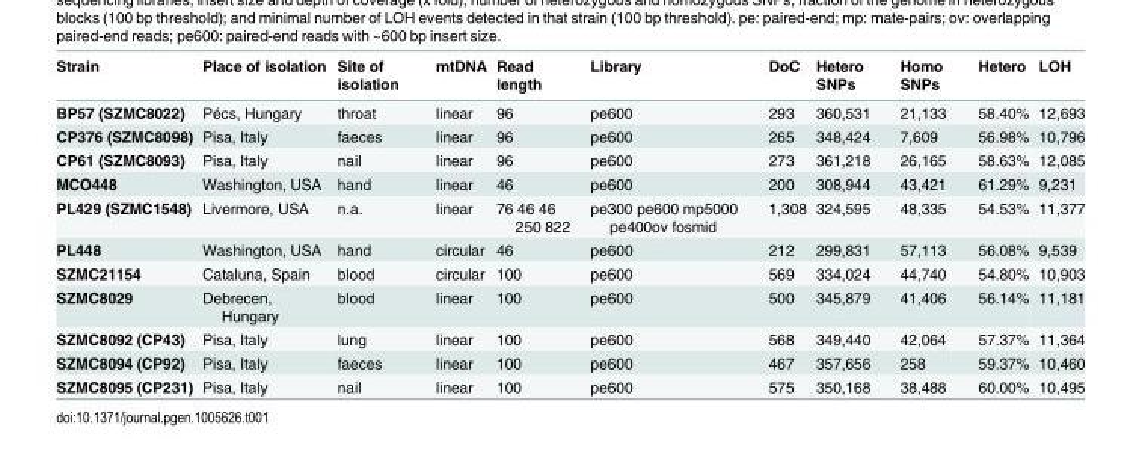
<table><thead><tr><td>Strain</td><td>Place of isolation</td><td>Site of isolation</td><td>mtDNA</td><td>Read length</td><td>Library</td><td>DoC</td><td>Hetero SNPs</td><td>Homo SNPs</td><td>Hetero</td><td>LOH</td></tr></thead><tbody><tr><td>BP57 (SZMC8022)</td><td>Pécs, Hungary</td><td>throat</td><td>linear</td><td>96</td><td>pe600</td><td>293</td><td>360,531</td><td>21,133</td><td>58.40%</td><td>12,693</td></tr><tr><td>CP376 (SZMC8098)</td><td>Pisa, Italy</td><td>faeces</td><td>linear</td><td>96</td><td>pe600</td><td>265</td><td>348,424</td><td>7,609</td><td>56.98%</td><td>10,796</td></tr><tr><td>CP61 (SZMC8093)</td><td>Pisa, Italy</td><td>nail</td><td>linear</td><td>96</td><td>pe600</td><td>273</td><td>361,218</td><td>26,165</td><td>58.63%</td><td>12,085</td></tr><tr><td>MCO448</td><td>Washington, USA</td><td>hand</td><td>linear</td><td>46</td><td>pe600</td><td>200</td><td>308,944</td><td>43,421</td><td>61.29%</td><td>9,231</td></tr><tr><td>PL429 (SZMC1548)</td><td>Livermore, USA</td><td>n.a.</td><td>linear</td><td>76 46 46 250 822</td><td>pe300 pe600 mp5000 pe400ov fosmid</td><td>1,308</td><td>324,595</td><td>48,335</td><td>54.53%</td><td>11,377</td></tr><tr><td>PL448</td><td>Washington, USA</td><td>hand</td><td>circular</td><td>46</td><td>pe600</td><td>212</td><td>299,831</td><td>57,113</td><td>56.08%</td><td>9,539</td></tr><tr><td>SZMC21154</td><td>Cataluna, Spain</td><td>blood</td><td>circular</td><td>100</td><td>pe600</td><td>569</td><td>334,024</td><td>44,740</td><td>54.80%</td><td>10,903</td></tr><tr><td>SZMC8029</td><td>Debrecen, Hungary</td><td>blood</td><td>linear</td><td>100</td><td>pe600</td><td>500</td><td>345,879</td><td>41,406</td><td>56.14%</td><td>11,181</td></tr><tr><td>SZMC8092 (CP43)</td><td>Pisa, Italy</td><td>lung</td><td>linear</td><td>100</td><td>pe600</td><td>568</td><td>349,440</td><td>42,064</td><td>57.37%</td><td>11,364</td></tr><tr><td>SZMC8094 (CP92)</td><td>Pisa, Italy</td><td>faeces</td><td>linear</td><td>100</td><td>pe600</td><td>467</td><td>357,656</td><td>258</td><td>59.37%</td><td>10,460</td></tr><tr><td>SZMC8095 (CP231)</td><td>Pisa, Italy</td><td>nail</td><td>linear</td><td>100</td><td>pe600</td><td>575</td><td>350,168</td><td>38,488</td><td>60.00%</td><td>10,495</td></tr></tbody></table>